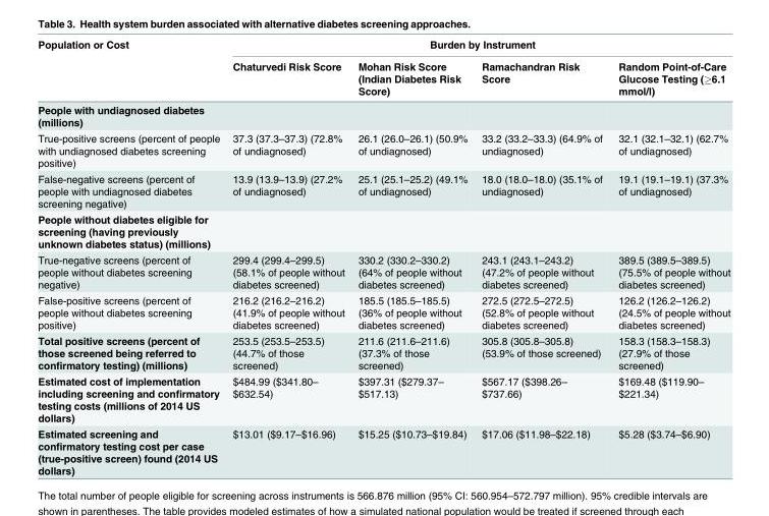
<table><thead><tr><td rowspan="2">Population or Cost</td><td colspan="4">Burden by Instrument</td></tr><tr><td>Chaturvedi Risk Score</td><td>Mohan Risk Score (Indian Diabetes Risk Score)</td><td>Ramachandran Risk Score</td><td>Random Point-of-Care Glucose Testing (≥6.1 mmol/l)</td></tr></thead><tbody><tr><td colspan="5">People with undiagnosed diabetes (millions)</td></tr><tr><td>True-positive screens (percent of people with undiagnosed diabetes screening positive)</td><td>37.3 (37.3–37.3) (72.8% of undiagnosed)</td><td>26.1 (26.0–26.1) (50.9% of undiagnosed)</td><td>33.2 (33.2–33.3) (64.9% of undiagnosed)</td><td>32.1 (32.1–32.1) (62.7% of undiagnosed)</td></tr><tr><td>False-negative screens (percent of people with undiagnosed diabetes screening negative)</td><td>13.9 (13.9–13.9) (27.2% of undiagnosed)</td><td>25.1 (25.1–25.2) (49.1% of undiagnosed)</td><td>18.0 (18.0–18.0) (35.1% of undiagnosed)</td><td>19.1 (19.1–19.1) (37.3% of undiagnosed)</td></tr><tr><td colspan="5">People without diabetes eligible for screening (having previously unknown diabetes status) (millions)</td></tr><tr><td>True-negative screens (percent of people without diabetes screening negative)</td><td>299.4 (299.4–299.5) (58.1% of people without diabetes screened)</td><td>330.2 (330.2–330.2) (64% of people without diabetes screened)</td><td>243.1 (243.1–243.2) (47.2% of people without diabetes screened)</td><td>389.5 (389.5–389.5) (75.5% of people without diabetes screened)</td></tr><tr><td>False-positive screens (percent of people without diabetes screening positive)</td><td>216.2 (216.2–216.2) (41.9% of people without diabetes screened)</td><td>185.5 (185.5–185.5) (36% of people without diabetes screened)</td><td>272.5 (272.5–272.5) (52.8% of people without diabetes screened)</td><td>126.2 (126.2–126.2) (24.5% of people without diabetes screened)</td></tr><tr><td>Total positive screens (percent of those screened being referred to confirmatory testing) (millions)</td><td>253.5 (253.5–253.5) (44.7% of those screened)</td><td>211.6 (211.6–211.6) (37.3% of those screened)</td><td>305.8 (305.8–305.8) (53.9% of those screened)</td><td>158.3 (158.3–158.3) (27.9% of those screened)</td></tr><tr><td>Estimated cost of implementation including screening and confirmatory testing costs (millions of 2014 US dollars)</td><td>$484.99 ($341.80– $632.54)</td><td>$397.31 ($279.37– $517.13)</td><td>$567.17 ($398.26– $737.66)</td><td>$169.48 ($119.90– $221.34)</td></tr><tr><td>Estimated screening and confirmatory testing cost per case (true-positive screen) found (2014 US dollars)</td><td>$13.01 ($9.17–$16.96)</td><td>$15.25 ($10.73–$19.84)</td><td>$17.06 ($11.98–$22.18)</td><td>$5.28 ($3.74–$6.90)</td></tr></tbody></table>